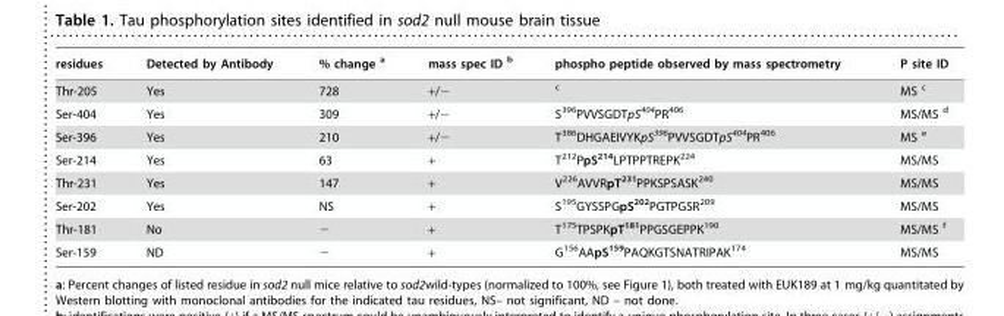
<table><thead><tr><td>residues</td><td>Detected by Antibody</td><td>% change a</td><td>mass spec ID b</td><td>phospho peptide observed by mass spectrometry</td><td>P site ID</td></tr></thead><tbody><tr><td>Thr-205</td><td>Yes</td><td>728</td><td>+/−</td><td>c</td><td>MS c</td></tr><tr><td>Ser-404</td><td>Yes</td><td>309</td><td>+/−</td><td>S<sup>396</sup>PVVSGDTpS<sup>404</sup>PR<sup>406</sup></td><td>MS/MS d</td></tr><tr><td>Ser-396</td><td>Yes</td><td>210</td><td>+/−</td><td>T<sup>386</sup>DHGAEIVYKpS<sup>396</sup>PVVSGDTpS<sup>404</sup>PR<sup>406</sup></td><td>MS e</td></tr><tr><td>Ser-214</td><td>Yes</td><td>63</td><td>+</td><td>T<sup>212</sup>PpS<sup>214</sup>LPTPPTREPK<sup>224</sup></td><td>MS/MS</td></tr><tr><td>Thr-231</td><td>Yes</td><td>147</td><td>+</td><td>V<sup>226</sup>AVVRpT<sup>231</sup>PPKSPSASK<sup>240</sup></td><td>MS/MS</td></tr><tr><td>Ser-202</td><td>Yes</td><td>NS</td><td>+</td><td>S<sup>195</sup>GYSSPGpS<sup>202</sup>PGTPGSR<sup>209</sup></td><td>MS/MS</td></tr><tr><td>Thr-181</td><td>No</td><td>−</td><td>+</td><td>T<sup>175</sup>TPSPKpT<sup>181</sup>PPGSGEPPK<sup>190</sup></td><td>MS/MS f</td></tr><tr><td>Ser-159</td><td>ND</td><td>−</td><td>+</td><td>G<sup>156</sup>AApS<sup>159</sup>PAQKGTSNATRIPAK<sup>174</sup></td><td>MS/MS</td></tr></tbody></table>